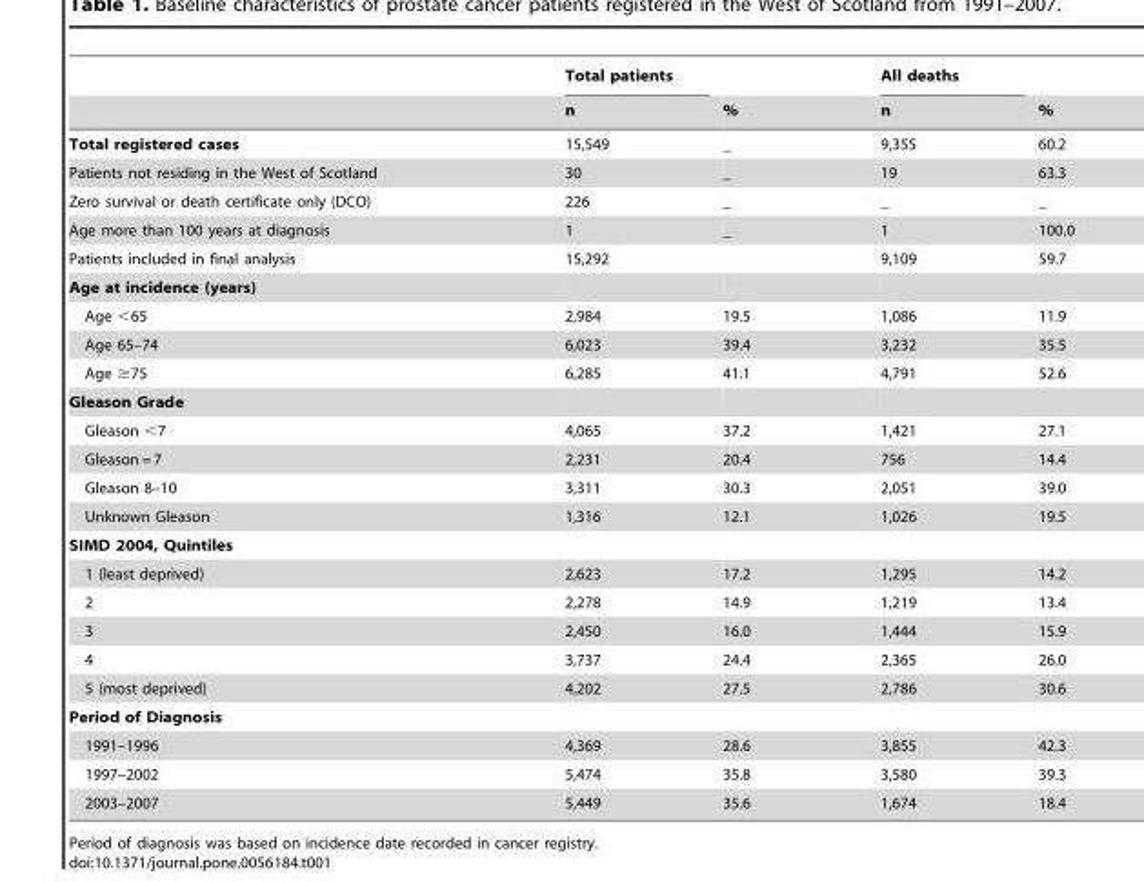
<table><thead><tr><td rowspan="2"></td><td rowspan="2">Total patients n</td><td rowspan="2">%</td><td rowspan="2">All deaths n</td><td rowspan="2">%</td></tr><tr></tr></thead><tbody><tr><td>Total registered cases</td><td>15,549</td><td>_</td><td>9,355</td><td>60.2</td></tr><tr><td>Patients not residing in the West of Scotland</td><td>30</td><td>_</td><td>19</td><td>63.3</td></tr><tr><td>Zero survival or death certificate only (DCO)</td><td>226</td><td>_</td><td>_</td><td>_</td></tr><tr><td>Age more than 100 years at diagnosis</td><td>1</td><td>_</td><td>1</td><td>100.0</td></tr><tr><td>Patients included in final analysis</td><td>15,292</td><td></td><td>9,109</td><td>59.7</td></tr><tr><td colspan="5">Age at incidence (years)</td></tr><tr><td>Age &lt;65</td><td>2,984</td><td>19.5</td><td>1,086</td><td>11.9</td></tr><tr><td>Age 65–74</td><td>6,023</td><td>39.4</td><td>3,232</td><td>35.5</td></tr><tr><td>Age ≥75</td><td>6,285</td><td>41.1</td><td>4,791</td><td>52.6</td></tr><tr><td colspan="5">Gleason Grade</td></tr><tr><td>Gleason &lt;7</td><td>4,065</td><td>37.2</td><td>1,421</td><td>27.1</td></tr><tr><td>Gleason = 7</td><td>2,231</td><td>20.4</td><td>756</td><td>14.4</td></tr><tr><td>Gleason 8–10</td><td>3,311</td><td>30.3</td><td>2,051</td><td>39.0</td></tr><tr><td>Unknown Gleason</td><td>1,316</td><td>12.1</td><td>1,026</td><td>19.5</td></tr><tr><td colspan="5">SIMD 2004, Quintiles</td></tr><tr><td>1 (least deprived)</td><td>2,623</td><td>17.2</td><td>1,295</td><td>14.2</td></tr><tr><td>2</td><td>2,278</td><td>14.9</td><td>1,219</td><td>13.4</td></tr><tr><td>3</td><td>2,450</td><td>16.0</td><td>1,444</td><td>15.9</td></tr><tr><td>4</td><td>3,737</td><td>24.4</td><td>2,365</td><td>26.0</td></tr><tr><td>5 (most deprived)</td><td>4,202</td><td>27.5</td><td>2,786</td><td>30.6</td></tr><tr><td colspan="5">Period of Diagnosis</td></tr><tr><td>1991–1996</td><td>4,369</td><td>28.6</td><td>3,855</td><td>42.3</td></tr><tr><td>1997–2002</td><td>5,474</td><td>35.8</td><td>3,580</td><td>39.3</td></tr><tr><td>2003–2007</td><td>5,449</td><td>35.6</td><td>1,674</td><td>18.4</td></tr></tbody></table>